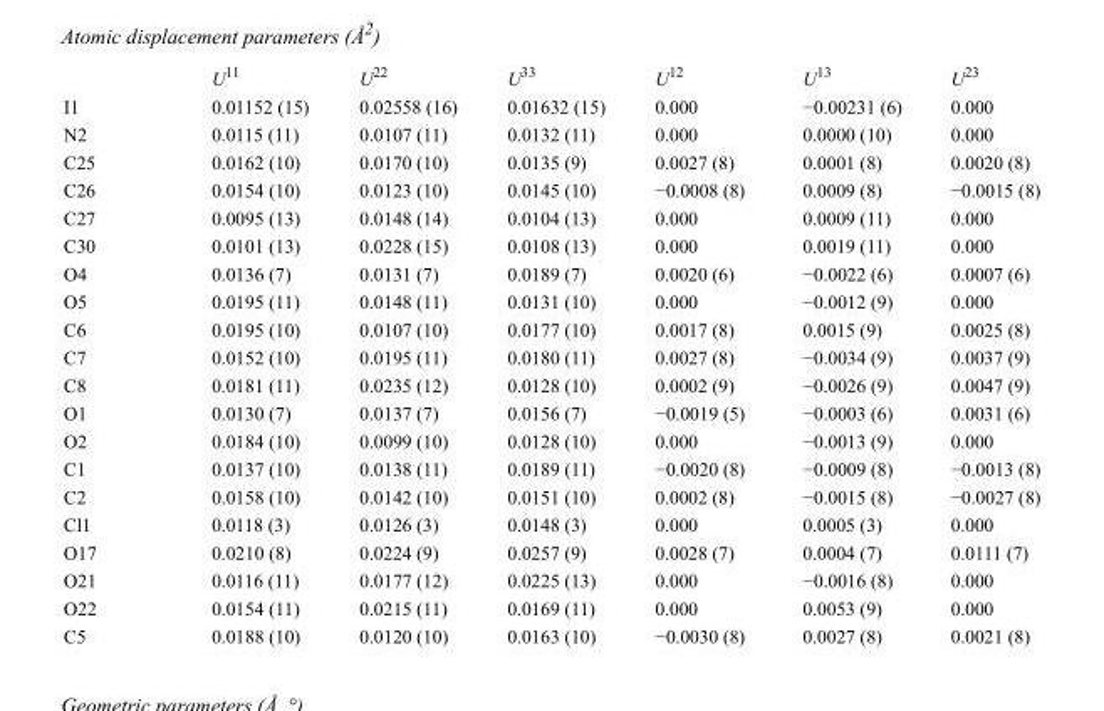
<table><thead><tr><td></td><td>U<sup>11</sup></td><td>U<sup>22</sup></td><td>U<sup>33</sup></td><td>U<sup>12</sup></td><td>U<sup>13</sup></td><td>U<sup>23</sup></td></tr></thead><tbody><tr><td>I1</td><td>0.01152 (15)</td><td>0.02558 (16)</td><td>0.01632 (15)</td><td>0.000</td><td>−0.00231 (6)</td><td>0.000</td></tr><tr><td>N2</td><td>0.0115 (11)</td><td>0.0107 (11)</td><td>0.0132 (11)</td><td>0.000</td><td>0.0000 (10)</td><td>0.000</td></tr><tr><td>C25</td><td>0.0162 (10)</td><td>0.0170 (10)</td><td>0.0135 (9)</td><td>0.0027 (8)</td><td>0.0001 (8)</td><td>0.0020 (8)</td></tr><tr><td>C26</td><td>0.0154 (10)</td><td>0.0123 (10)</td><td>0.0145 (10)</td><td>−0.0008 (8)</td><td>0.0009 (8)</td><td>−0.0015 (8)</td></tr><tr><td>C27</td><td>0.0095 (13)</td><td>0.0148 (14)</td><td>0.0104 (13)</td><td>0.000</td><td>0.0009 (11)</td><td>0.000</td></tr><tr><td>C30</td><td>0.0101 (13)</td><td>0.0228 (15)</td><td>0.0108 (13)</td><td>0.000</td><td>0.0019 (11)</td><td>0.000</td></tr><tr><td>O4</td><td>0.0136 (7)</td><td>0.0131 (7)</td><td>0.0189 (7)</td><td>0.0020 (6)</td><td>−0.0022 (6)</td><td>0.0007 (6)</td></tr><tr><td>O5</td><td>0.0195 (11)</td><td>0.0148 (11)</td><td>0.0131 (10)</td><td>0.000</td><td>−0.0012 (9)</td><td>0.000</td></tr><tr><td>C6</td><td>0.0195 (10)</td><td>0.0107 (10)</td><td>0.0177 (10)</td><td>0.0017 (8)</td><td>0.0015 (9)</td><td>0.0025 (8)</td></tr><tr><td>C7</td><td>0.0152 (10)</td><td>0.0195 (11)</td><td>0.0180 (11)</td><td>0.0027 (8)</td><td>−0.0034 (9)</td><td>0.0037 (9)</td></tr><tr><td>C8</td><td>0.0181 (11)</td><td>0.0235 (12)</td><td>0.0128 (10)</td><td>0.0002 (9)</td><td>−0.0026 (9)</td><td>0.0047 (9)</td></tr><tr><td>O1</td><td>0.0130 (7)</td><td>0.0137 (7)</td><td>0.0156 (7)</td><td>−0.0019 (5)</td><td>−0.0003 (6)</td><td>0.0031 (6)</td></tr><tr><td>O2</td><td>0.0184 (10)</td><td>0.0099 (10)</td><td>0.0128 (10)</td><td>0.000</td><td>−0.0013 (9)</td><td>0.000</td></tr><tr><td>C1</td><td>0.0137 (10)</td><td>0.0138 (11)</td><td>0.0189 (11)</td><td>−0.0020 (8)</td><td>−0.0009 (8)</td><td>−0.0013 (8)</td></tr><tr><td>C2</td><td>0.0158 (10)</td><td>0.0142 (10)</td><td>0.0151 (10)</td><td>0.0002 (8)</td><td>−0.0015 (8)</td><td>−0.0027 (8)</td></tr><tr><td>Cl1</td><td>0.0118 (3)</td><td>0.0126 (3)</td><td>0.0148 (3)</td><td>0.000</td><td>0.0005 (3)</td><td>0.000</td></tr><tr><td>O17</td><td>0.0210 (8)</td><td>0.0224 (9)</td><td>0.0257 (9)</td><td>0.0028 (7)</td><td>0.0004 (7)</td><td>0.0111 (7)</td></tr><tr><td>O21</td><td>0.0116 (11)</td><td>0.0177 (12)</td><td>0.0225 (13)</td><td>0.000</td><td>−0.0016 (8)</td><td>0.000</td></tr><tr><td>O22</td><td>0.0154 (11)</td><td>0.0215 (11)</td><td>0.0169 (11)</td><td>0.000</td><td>0.0053 (9)</td><td>0.000</td></tr><tr><td>C5</td><td>0.0188 (10)</td><td>0.0120 (10)</td><td>0.0163 (10)</td><td>−0.0030 (8)</td><td>0.0027 (8)</td><td>0.0021 (8)</td></tr></tbody></table>